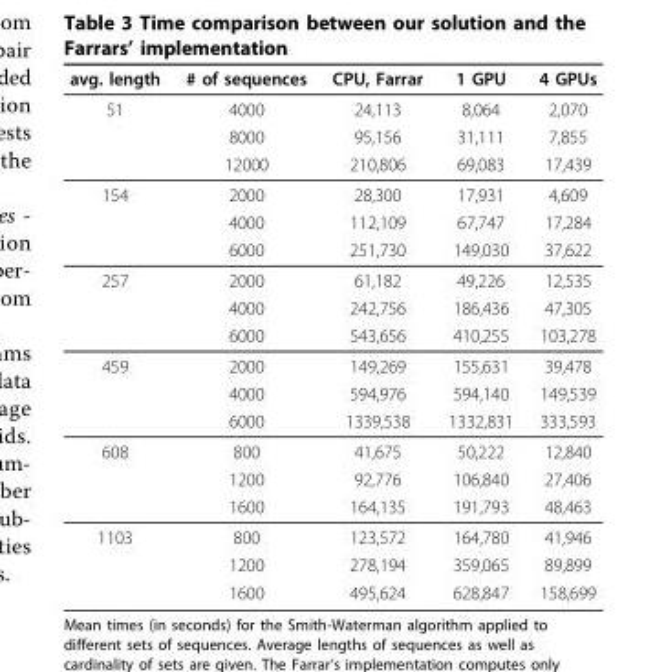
<table><thead><tr><td>avg. length</td><td># of sequences</td><td>CPU, Farrar</td><td>1 GPU</td><td>4 GPUs</td></tr></thead><tbody><tr><td rowspan="3">51</td><td>4000</td><td>24,113</td><td>8,064</td><td>2,070</td></tr><tr><td>8000</td><td>95,156</td><td>31,111</td><td>7,855</td></tr><tr><td>12000</td><td>210,806</td><td>69,083</td><td>17,439</td></tr><tr><td rowspan="3">154</td><td>2000</td><td>28,300</td><td>17,931</td><td>4,609</td></tr><tr><td>4000</td><td>112,109</td><td>67,747</td><td>17,284</td></tr><tr><td>6000</td><td>251,730</td><td>149,030</td><td>37,622</td></tr><tr><td rowspan="3">257</td><td>2000</td><td>61,182</td><td>49,226</td><td>12,535</td></tr><tr><td>4000</td><td>242,756</td><td>186,436</td><td>47,305</td></tr><tr><td>6000</td><td>543,656</td><td>410,255</td><td>103,278</td></tr><tr><td rowspan="3">459</td><td>2000</td><td>149,269</td><td>155,631</td><td>39,478</td></tr><tr><td>4000</td><td>594,976</td><td>594,140</td><td>149,539</td></tr><tr><td>6000</td><td>1339,538</td><td>1332,831</td><td>333,593</td></tr><tr><td rowspan="3">608</td><td>800</td><td>41,675</td><td>50,222</td><td>12,840</td></tr><tr><td>1200</td><td>92,776</td><td>106,840</td><td>27,406</td></tr><tr><td>1600</td><td>164,135</td><td>191,793</td><td>48,463</td></tr><tr><td rowspan="3">1103</td><td>800</td><td>123,572</td><td>164,780</td><td>41,946</td></tr><tr><td>1200</td><td>278,194</td><td>359,065</td><td>89,899</td></tr><tr><td>1600</td><td>495,624</td><td>628,847</td><td>158,699</td></tr></tbody></table>